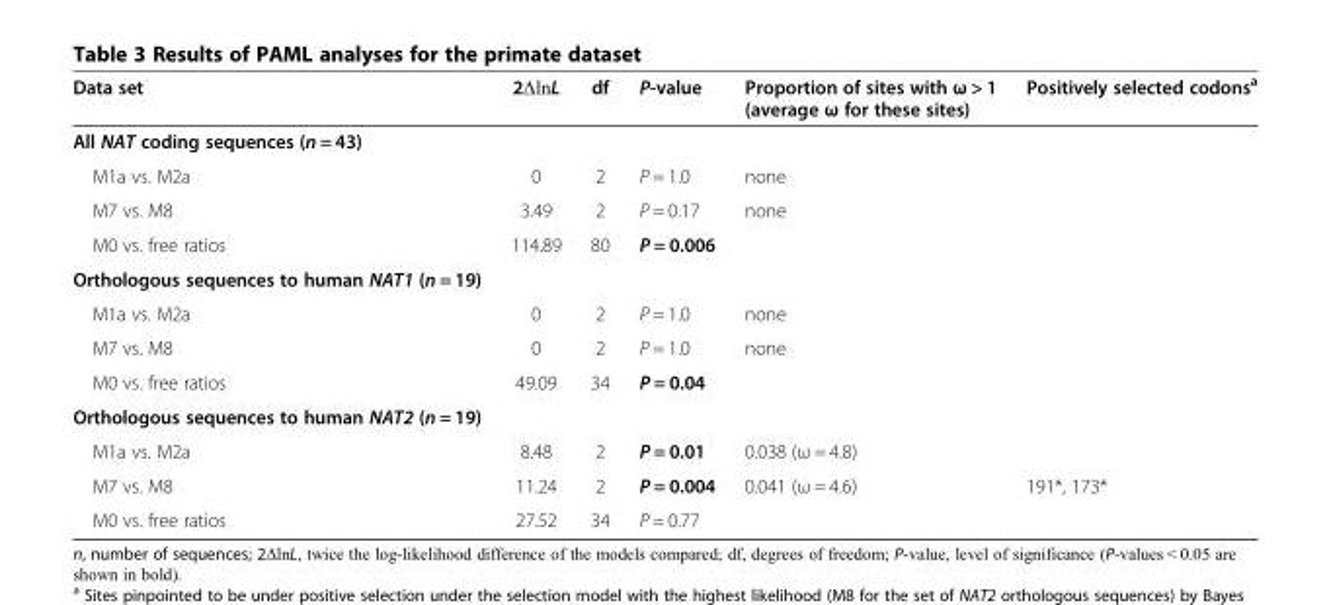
<table><thead><tr><td>Data set</td><td>2ΔlnL</td><td>df</td><td>P-value</td><td>Proportion of sites with ω &gt; 1 (average ω for these sites)</td><td>Positively selected codons<sup>a</sup></td></tr></thead><tbody><tr><td colspan="6">All NAT coding sequences (n = 43)</td></tr><tr><td>M1a vs. M2a</td><td>0</td><td>2</td><td>P = 1.0</td><td>none</td><td></td></tr><tr><td>M7 vs. M8</td><td>3.49</td><td>2</td><td>P = 0.17</td><td>none</td><td></td></tr><tr><td>M0 vs. free ratios</td><td>114.89</td><td>80</td><td>P = 0.006</td><td></td><td></td></tr><tr><td colspan="6">Orthologous sequences to human NAT1 (n = 19)</td></tr><tr><td>M1a vs. M2a</td><td>0</td><td>2</td><td>P = 1.0</td><td>none</td><td></td></tr><tr><td>M7 vs. M8</td><td>0</td><td>2</td><td>P = 1.0</td><td>none</td><td></td></tr><tr><td>M0 vs. free ratios</td><td>49.09</td><td>34</td><td>P = 0.04</td><td></td><td></td></tr><tr><td colspan="6">Orthologous sequences to human NAT2 (n = 19)</td></tr><tr><td>M1a vs. M2a</td><td>8.48</td><td>2</td><td>P = 0.01</td><td>0.038 (ω = 4.8)</td><td></td></tr><tr><td>M7 vs. M8</td><td>11.24</td><td>2</td><td>P = 0.004</td><td>0.041 (ω = 4.6)</td><td>191*, 173*</td></tr><tr><td>M0 vs. free ratios</td><td>27.52</td><td>34</td><td>P = 0.77</td><td></td><td></td></tr></tbody></table>